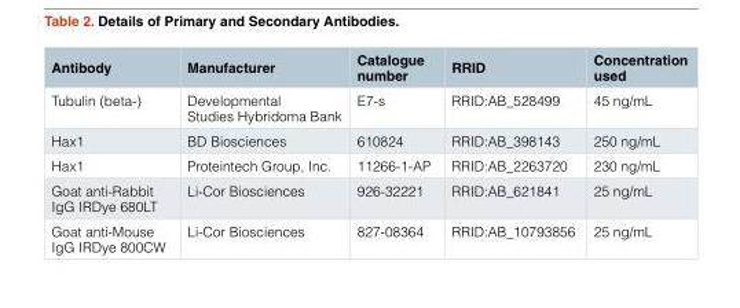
<table><thead><tr><td>Antibody</td><td>Manufacturer</td><td>Catalogue number</td><td>RRID</td><td>Concentration used</td></tr></thead><tbody><tr><td>Tubulin (beta-)</td><td>Developmental Studies Hybridoma Bank</td><td>E7-s</td><td>RRID:AB_528499</td><td>45 ng/mL</td></tr><tr><td>Hax1</td><td>BD Biosciences</td><td>610824</td><td>RRID:AB_398143</td><td>250 ng/mL</td></tr><tr><td>Hax1</td><td>Proteintech Group, Inc.</td><td>11266-1-AP</td><td>RRID:AB_2263720</td><td>230 ng/mL</td></tr><tr><td>Goat anti-Rabbit IgG IRDye 680LT</td><td>Li-Cor Biosciences</td><td>926-32221</td><td>RRID:AB_621841</td><td>25 ng/mL</td></tr><tr><td>Goat anti-Mouse IgG IRDye 800CW</td><td>Li-Cor Biosciences</td><td>827-08364</td><td>RRID:AB_10793856</td><td>25 ng/mL</td></tr></tbody></table>